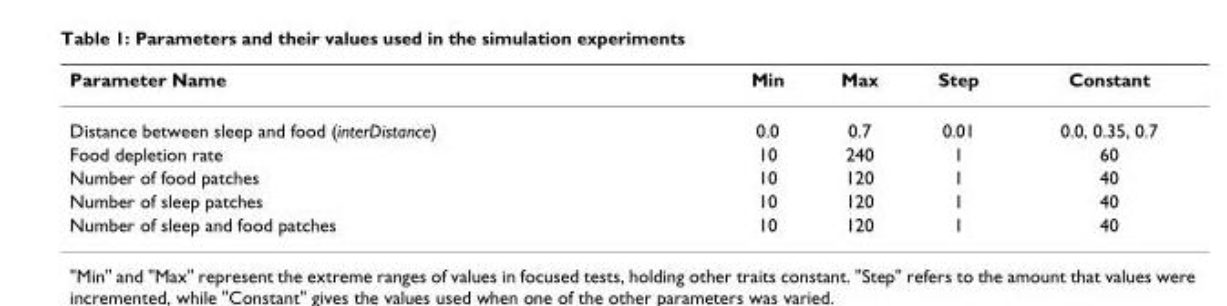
<table><thead><tr><td>Parameter Name</td><td>Min</td><td>Max</td><td>Step</td><td>Constant</td></tr></thead><tbody><tr><td>Distance between sleep and food (interDistance)</td><td>0.0</td><td>0.7</td><td>0.01</td><td>0.0, 0.35, 0.7</td></tr><tr><td>Food depletion rate</td><td>10</td><td>240</td><td>1</td><td>60</td></tr><tr><td>Number of food patches</td><td>10</td><td>120</td><td>1</td><td>40</td></tr><tr><td>Number of sleep patches</td><td>10</td><td>120</td><td>1</td><td>40</td></tr><tr><td>Number of sleep and food patches</td><td>10</td><td>120</td><td>1</td><td>40</td></tr></tbody></table>